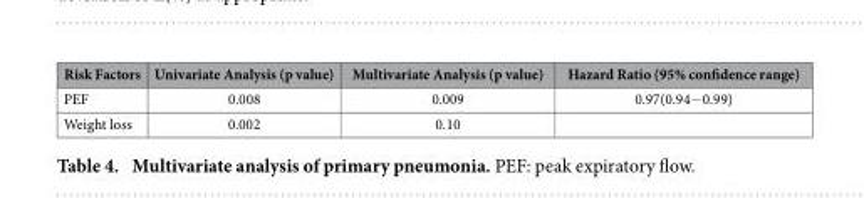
<table><thead><tr><td>Risk Factors</td><td>Univariate Analysis (p value)</td><td>Multivariate Analysis (p value)</td><td>Hazard Ratio (95% confidence range)</td></tr></thead><tbody><tr><td>PEF</td><td>0.008</td><td>0.009</td><td>0.97(0.94− 0.99)</td></tr><tr><td>Weight loss</td><td>0.002</td><td>0.10</td><td></td></tr></tbody></table>